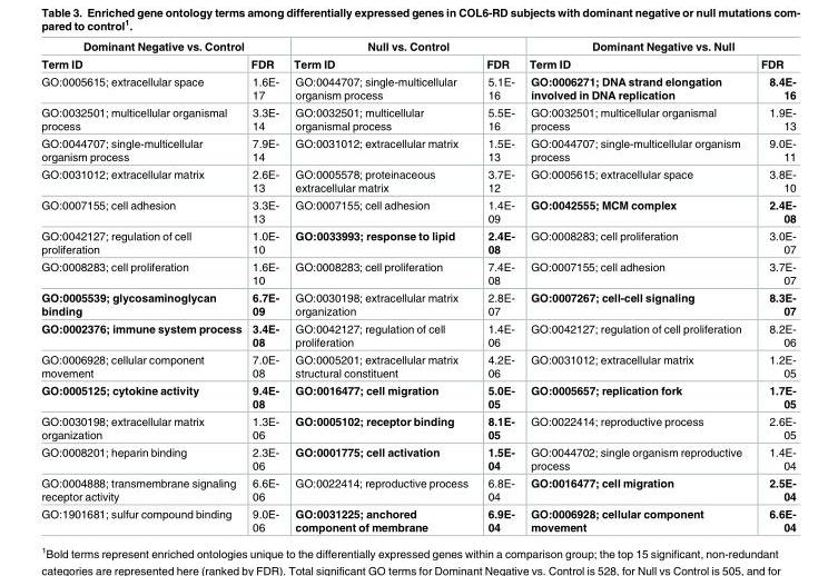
<table><thead><tr><td colspan="2">Dominant Negative vs. Control</td><td colspan="2">Null vs. Control</td><td colspan="2">Dominant Negative vs. Null</td></tr><tr><td>Term ID</td><td>FDR</td><td>Term ID</td><td>FDR</td><td>Term ID</td><td>FDR</td></tr></thead><tbody><tr><td>GO:0005615; extracellular space</td><td>1.6E- 17</td><td>GO:0044707; single-multicellular organism process</td><td>5.1E- 16</td><td>GO:0006271; DNA strand elongation involved in DNA replication</td><td>8.4E- 16</td></tr><tr><td>GO:0032501; multicellular organismal process</td><td>3.3E- 14</td><td>GO:0032501; multicellular organismal process</td><td>5.5E- 16</td><td>GO:0032501; multicellular organismal process</td><td>1.9E- 13</td></tr><tr><td>GO:0044707; single-multicellular organism process</td><td>7.9E- 14</td><td>GO:0031012; extracellular matrix</td><td>1.5E- 13</td><td>GO:0044707; single-multicellular organism process</td><td>9.0E- 11</td></tr><tr><td>GO:0031012; extracellular matrix</td><td>2.6E- 13</td><td>GO:0005578; proteinaceous extracellular matrix</td><td>3.7E- 12</td><td>GO:0005615; extracellular space</td><td>3.8E- 10</td></tr><tr><td>GO:0007155; cell adhesion</td><td>3.3E- 13</td><td>GO:0007155; cell adhesion</td><td>1.4E- 09</td><td>GO:0042555; MCM complex</td><td>2.4E- 08</td></tr><tr><td>GO:0042127; regulation of cell proliferation</td><td>1.0E- 10</td><td>GO:0033993; response to lipid</td><td>2.4E- 08</td><td>GO:0008283; cell proliferation</td><td>3.0E- 07</td></tr><tr><td>GO:0008283; cell proliferation</td><td>1.6E- 10</td><td>GO:0008283; cell proliferation</td><td>7.4E- 08</td><td>GO:0007155; cell adhesion</td><td>3.7E- 07</td></tr><tr><td>GO:0005539; glycosaminoglycan binding</td><td>6.7E- 09</td><td>GO:0030198; extracellular matrix organization</td><td>2.8E- 07</td><td>GO:0007267; cell-cell signaling</td><td>8.3E- 07</td></tr><tr><td>GO:0002376; immune system process</td><td>3.4E- 08</td><td>GO:0042127; regulation of cell proliferation</td><td>1.4E- 06</td><td>GO:0042127; regulation of cell proliferation</td><td>8.2E- 06</td></tr><tr><td>GO:0006928; cellular component movement</td><td>7.0E- 08</td><td>GO:0005201; extracellular matrix structural constituent</td><td>4.2E- 06</td><td>GO:0031012; extracellular matrix</td><td>1.2E- 05</td></tr><tr><td>GO:0005125; cytokine activity</td><td>9.4E- 08</td><td>GO:0016477; cell migration</td><td>5.0E- 05</td><td>GO:0005657; replication fork</td><td>1.7E- 05</td></tr><tr><td>GO:0030198; extracellular matrix organization</td><td>1.3E- 06</td><td>GO:0005102; receptor binding</td><td>8.1E- 05</td><td>GO:0022414; reproductive process</td><td>2.6E- 05</td></tr><tr><td>GO:0008201; heparin binding</td><td>2.3E- 06</td><td>GO:0001775; cell activation</td><td>1.5E- 04</td><td>GO:0044702; single organism reproductive process</td><td>1.4E- 04</td></tr><tr><td>GO:0004888; transmembrane signaling receptor activity</td><td>6.6E- 06</td><td>GO:0022414; reproductive process</td><td>6.8E- 04</td><td>GO:0016477; cell migration</td><td>2.5E- 04</td></tr><tr><td>GO:1901681; sulfur compound binding</td><td>9.0E- 06</td><td>GO:0031225; anchored component of membrane</td><td>6.9E- 04</td><td>GO:0006928; cellular component movement</td><td>6.6E- 04</td></tr></tbody></table>